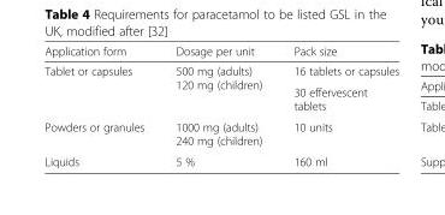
<table><thead><tr><td>Application form</td><td>Dosage per unit</td><td>Pack size</td></tr></thead><tbody><tr><td rowspan="2">Tablet or capsules</td><td rowspan="2">500 mg (adults) 120 mg (children)</td><td>16 tablets or capsules</td></tr><tr><td>30 effervescent tablets</td></tr><tr><td>Powders or granules</td><td>1000 mg (adults) 240 mg (children)</td><td>10 units</td></tr><tr><td>Liquids</td><td>5 %</td><td>160 ml</td></tr></tbody></table>